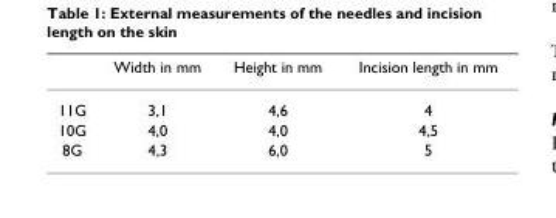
<table><thead><tr><td></td><td>Width in mm</td><td>Height in mm</td><td>Incision length in mm</td></tr></thead><tbody><tr><td>11G</td><td>3,1</td><td>4,6</td><td>4</td></tr><tr><td>10G</td><td>4,0</td><td>4,0</td><td>4,5</td></tr><tr><td>8G</td><td>4,3</td><td>6,0</td><td>5</td></tr></tbody></table>